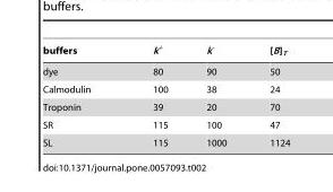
<table><thead><tr><td>buffers</td><td>k<sup>+</sup></td><td>k-</td><td>[B]<sub>T</sub></td></tr></thead><tbody><tr><td>dye</td><td>80</td><td>90</td><td>50</td></tr><tr><td>Calmodulin</td><td>100</td><td>38</td><td>24</td></tr><tr><td>Troponin</td><td>39</td><td>20</td><td>70</td></tr><tr><td>SR</td><td>115</td><td>100</td><td>47</td></tr><tr><td>SL</td><td>115</td><td>1000</td><td>1124</td></tr></tbody></table>